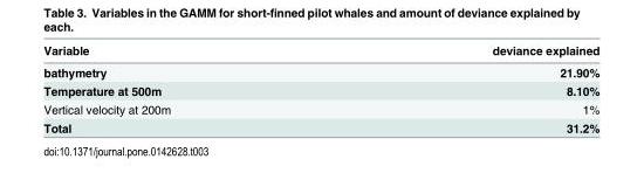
<table><thead><tr><td>Variable</td><td>deviance explained</td></tr></thead><tbody><tr><td>bathymetry</td><td>21.90%</td></tr><tr><td>Temperature at 500m</td><td>8.10%</td></tr><tr><td>Vertical velocity at 200m</td><td>1%</td></tr><tr><td>Total</td><td>31.2%</td></tr></tbody></table>